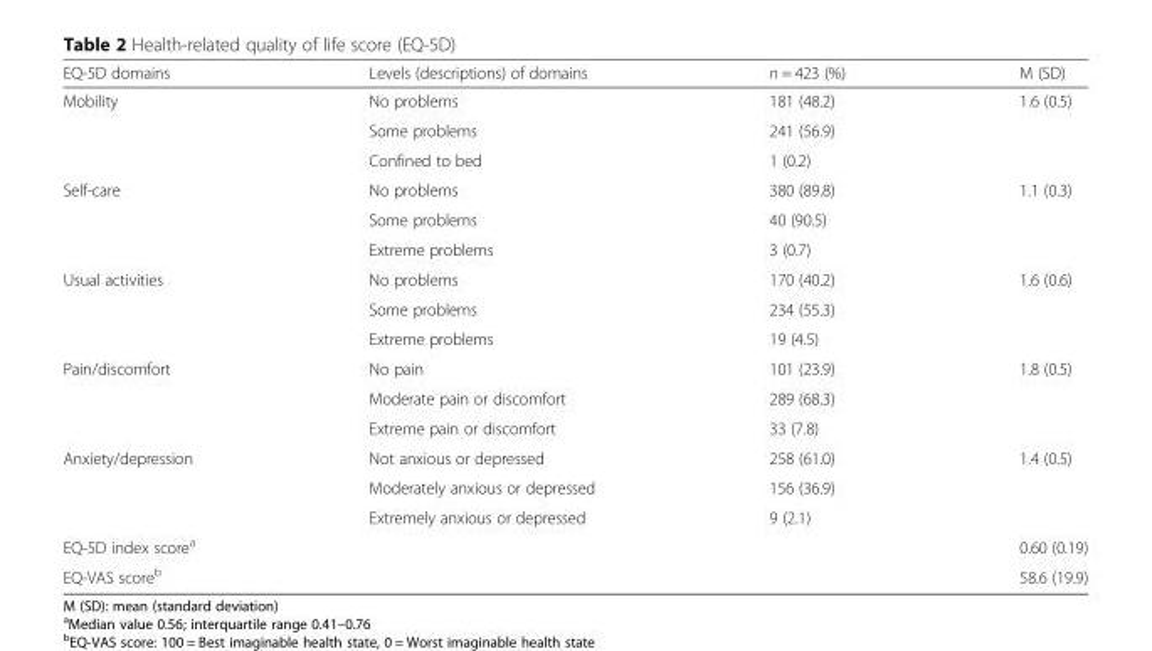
<table><thead><tr><td>EQ-5D domains</td><td>Levels (descriptions) of domains</td><td>n = 423 (%)</td><td>M (SD)</td></tr></thead><tbody><tr><td rowspan="3">Mobility</td><td>No problems</td><td>181 (48.2)</td><td rowspan="3">1.6 (0.5)</td></tr><tr><td>Some problems</td><td>241 (56.9)</td></tr><tr><td>Confined to bed</td><td>1 (0.2)</td></tr><tr><td rowspan="3">Self-care</td><td>No problems</td><td>380 (89.8)</td><td rowspan="3">1.1 (0.3)</td></tr><tr><td>Some problems</td><td>40 (90.5)</td></tr><tr><td>Extreme problems</td><td>3 (0.7)</td></tr><tr><td rowspan="3">Usual activities</td><td>No problems</td><td>170 (40.2)</td><td rowspan="3">1.6 (0.6)</td></tr><tr><td>Some problems</td><td>234 (55.3)</td></tr><tr><td>Extreme problems</td><td>19 (4.5)</td></tr><tr><td rowspan="3">Pain/discomfort</td><td>No pain</td><td>101 (23.9)</td><td rowspan="3">1.8 (0.5)</td></tr><tr><td>Moderate pain or discomfort</td><td>289 (68.3)</td></tr><tr><td>Extreme pain or discomfort</td><td>33 (7.8)</td></tr><tr><td rowspan="3">Anxiety/depression</td><td>Not anxious or depressed</td><td>258 (61.0)</td><td rowspan="3">1.4 (0.5)</td></tr><tr><td>Moderately anxious or depressed</td><td>156 (36.9)</td></tr><tr><td>Extremely anxious or depressed</td><td>9 (2.1)</td></tr><tr><td>EQ-5D index score<sup>a</sup></td><td></td><td></td><td>0.60 (0.19)</td></tr><tr><td>EQ-VAS score<sup>b</sup></td><td></td><td></td><td>58.6 (19.9)</td></tr></tbody></table>